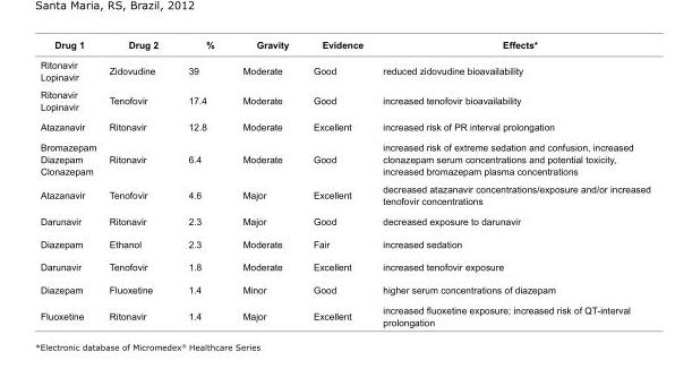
<table><tbody><tr><td>Drug 1</td><td>Drug 2</td><td>%</td><td>Gravity</td><td>Evidence</td><td>Effects*</td></tr><tr><td>Ritonavir Lopinavir</td><td>Zidovudine</td><td>39</td><td>Moderate</td><td>Good</td><td>reduced zidovudine bioavailability</td></tr><tr><td>Ritonavir Lopinavir</td><td>Tenofovir</td><td>17.4</td><td>Moderate</td><td>Good</td><td>increased tenofovir bioavailability</td></tr><tr><td>Atazanavir</td><td>Ritonavir</td><td>12.8</td><td>Moderate</td><td>Excellent</td><td>increased risk of PR interval prolongation</td></tr><tr><td>Bromazepam Diazepam Clonazepam</td><td>Ritonavir</td><td>6.4</td><td>Moderate</td><td>Good</td><td>increased risk of extreme sedation and confusion, increased clonazepam serum concentrations and potential toxicity, increased bromazepam plasma concentrations</td></tr><tr><td>Atazanavir</td><td>Tenofovir</td><td>4.6</td><td>Major</td><td>Excellent</td><td>decreased atazanavir concentrations/exposure and/or increased tenofovir concentrations</td></tr><tr><td>Darunavir</td><td>Ritonavir</td><td>2.3</td><td>Major</td><td>Good</td><td>decreased exposure to darunavir</td></tr><tr><td>Diazepam</td><td>Ethanol</td><td>2.3</td><td>Moderate</td><td>Fair</td><td>increased sedation</td></tr><tr><td>Darunavir</td><td>Tenofovir</td><td>1.8</td><td>Moderate</td><td>Excellent</td><td>increased tenofovir exposure</td></tr><tr><td>Diazepam</td><td>Fluoxetine</td><td>1.4</td><td>Minor</td><td>Good</td><td>higher serum concentrations of diazepam</td></tr><tr><td>Fluoxetine</td><td>Ritonavir</td><td>1.4</td><td>Major</td><td>Excellent</td><td>increased fluoxetine exposure; increased risk of QT-interval prolongation</td></tr></tbody></table>